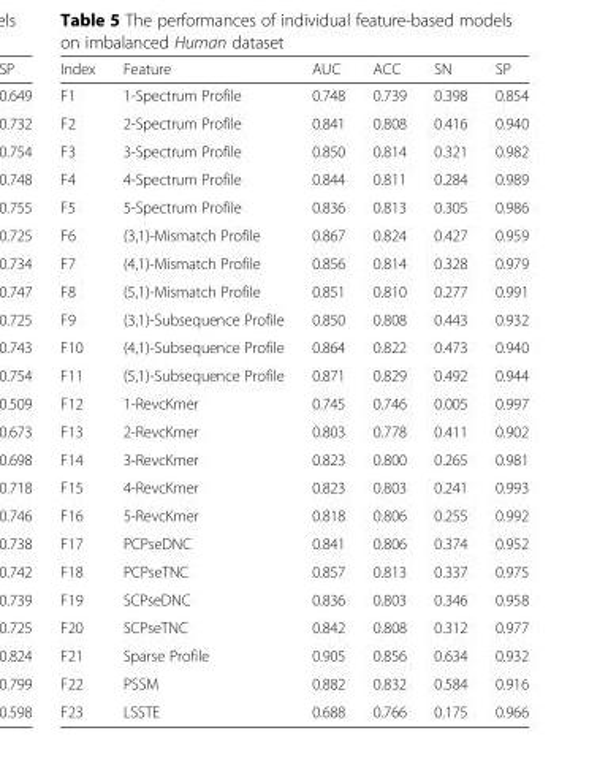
<table><thead><tr><td>Index</td><td>Feature</td><td>AUC</td><td>ACC</td><td>SN</td><td>SP</td></tr></thead><tbody><tr><td>F1</td><td>1-Spectrum Profile</td><td>0.748</td><td>0.739</td><td>0.398</td><td>0.854</td></tr><tr><td>F2</td><td>2-Spectrum Profile</td><td>0.841</td><td>0.808</td><td>0.416</td><td>0.940</td></tr><tr><td>F3</td><td>3-Spectrum Profile</td><td>0.850</td><td>0.814</td><td>0.321</td><td>0.982</td></tr><tr><td>F4</td><td>4-Spectrum Profile</td><td>0.844</td><td>0.811</td><td>0.284</td><td>0.989</td></tr><tr><td>F5</td><td>5-Spectrum Profile</td><td>0.836</td><td>0.813</td><td>0.305</td><td>0.986</td></tr><tr><td>F6</td><td>(3,1)-Mismatch Profile</td><td>0.867</td><td>0.824</td><td>0.427</td><td>0.959</td></tr><tr><td>F7</td><td>(4,1)-Mismatch Profile</td><td>0.856</td><td>0.814</td><td>0.328</td><td>0.979</td></tr><tr><td>F8</td><td>(5,1)-Mismatch Profile</td><td>0.851</td><td>0.810</td><td>0.277</td><td>0.991</td></tr><tr><td>F9</td><td>(3,1)-Subsequence Profile</td><td>0.850</td><td>0.808</td><td>0.443</td><td>0.932</td></tr><tr><td>F10</td><td>(4,1)-Subsequence Profile</td><td>0.864</td><td>0.822</td><td>0.473</td><td>0.940</td></tr><tr><td>F11</td><td>(5,1)-Subsequence Profile</td><td>0.871</td><td>0.829</td><td>0.492</td><td>0.944</td></tr><tr><td>F12</td><td>1-RevcKmer</td><td>0.745</td><td>0.746</td><td>0.005</td><td>0.997</td></tr><tr><td>F13</td><td>2-RevcKmer</td><td>0.803</td><td>0.778</td><td>0.411</td><td>0.902</td></tr><tr><td>F14</td><td>3-RevcKmer</td><td>0.823</td><td>0.800</td><td>0.265</td><td>0.981</td></tr><tr><td>F15</td><td>4-RevcKmer</td><td>0.823</td><td>0.803</td><td>0.241</td><td>0.993</td></tr><tr><td>F16</td><td>5-RevcKmer</td><td>0.818</td><td>0.806</td><td>0.255</td><td>0.992</td></tr><tr><td>F17</td><td>PCPseDNC</td><td>0.841</td><td>0.806</td><td>0.374</td><td>0.952</td></tr><tr><td>F18</td><td>PCPseTNC</td><td>0.857</td><td>0.813</td><td>0.337</td><td>0.975</td></tr><tr><td>F19</td><td>SCPseDNC</td><td>0.836</td><td>0.803</td><td>0.346</td><td>0.958</td></tr><tr><td>F20</td><td>SCPseTNC</td><td>0.842</td><td>0.808</td><td>0.312</td><td>0.977</td></tr><tr><td>F21</td><td>Sparse Profile</td><td>0.905</td><td>0.856</td><td>0.634</td><td>0.932</td></tr><tr><td>F22</td><td>PSSM</td><td>0.882</td><td>0.832</td><td>0.584</td><td>0.916</td></tr><tr><td>F23</td><td>LSSTE</td><td>0.688</td><td>0.766</td><td>0.175</td><td>0.966</td></tr></tbody></table>